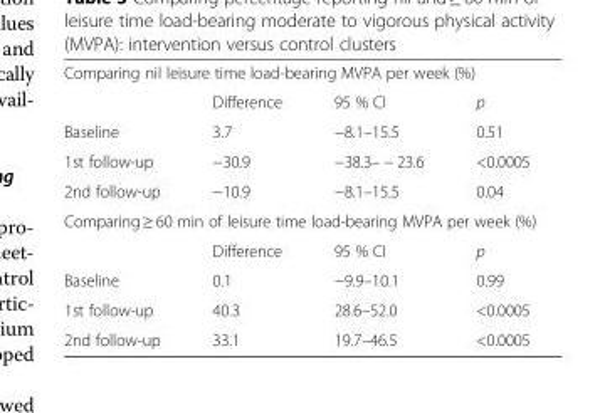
<table><tbody><tr><td colspan="4">Comparing nil leisure time load-bearing MVPA per week (%)</td></tr><tr><td></td><td>Difference</td><td>95 % CI</td><td>p</td></tr><tr><td>Baseline</td><td>3.7</td><td>−8.1–15.5</td><td>0.51</td></tr><tr><td>1st follow-up</td><td>−30.9</td><td>−38.3– − 23.6</td><td>&lt;0.0005</td></tr><tr><td>2nd follow-up</td><td>−10.9</td><td>−8.1–15.5</td><td>0.04</td></tr><tr><td colspan="4">Comparing ≥ 60 min of leisure time load-bearing MVPA per week (%)</td></tr><tr><td></td><td>Difference</td><td>95 % CI</td><td>p</td></tr><tr><td>Baseline</td><td>0.1</td><td>−9.9–10.1</td><td>0.99</td></tr><tr><td>1st follow-up</td><td>40.3</td><td>28.6–52.0</td><td>&lt;0.0005</td></tr><tr><td>2nd follow-up</td><td>33.1</td><td>19.7–46.5</td><td>&lt;0.0005</td></tr></tbody></table>